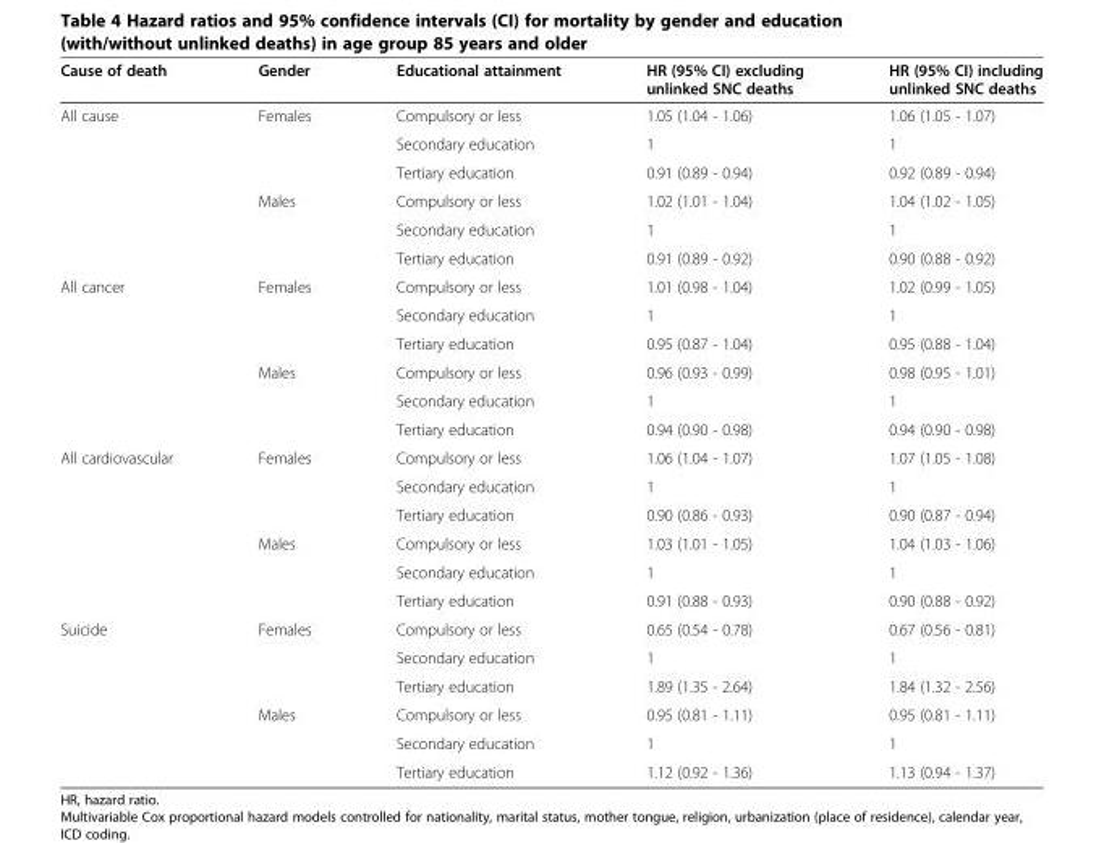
<table><thead><tr><td>Cause of death</td><td>Gender</td><td>Educational attainment</td><td>HR (95% CI) excluding unlinked SNC deaths</td><td>HR (95% CI) including unlinked SNC deaths</td></tr></thead><tbody><tr><td rowspan="6">All cause</td><td>Females</td><td>Compulsory or less</td><td>1.05 (1.04 - 1.06)</td><td>1.06 (1.05 - 1.07)</td></tr><tr><td></td><td>Secondary education</td><td>1</td><td>1</td></tr><tr><td></td><td>Tertiary education</td><td>0.91 (0.89 - 0.94)</td><td>0.92 (0.89 - 0.94)</td></tr><tr><td>Males</td><td>Compulsory or less</td><td>1.02 (1.01 - 1.04)</td><td>1.04 (1.02 - 1.05)</td></tr><tr><td></td><td>Secondary education</td><td>1</td><td>1</td></tr><tr><td></td><td>Tertiary education</td><td>0.91 (0.89 - 0.92)</td><td>0.90 (0.88 - 0.92)</td></tr><tr><td rowspan="6">All cancer</td><td>Females</td><td>Compulsory or less</td><td>1.01 (0.98 - 1.04)</td><td>1.02 (0.99 - 1.05)</td></tr><tr><td></td><td>Secondary education</td><td>1</td><td>1</td></tr><tr><td></td><td>Tertiary education</td><td>0.95 (0.87 - 1.04)</td><td>0.95 (0.88 - 1.04)</td></tr><tr><td>Males</td><td>Compulsory or less</td><td>0.96 (0.93 - 0.99)</td><td>0.98 (0.95 - 1.01)</td></tr><tr><td></td><td>Secondary education</td><td>1</td><td>1</td></tr><tr><td></td><td>Tertiary education</td><td>0.94 (0.90 - 0.98)</td><td>0.94 (0.90 - 0.98)</td></tr><tr><td rowspan="6">All cardiovascular</td><td>Females</td><td>Compulsory or less</td><td>1.06 (1.04 - 1.07)</td><td>1.07 (1.05 - 1.08)</td></tr><tr><td></td><td>Secondary education</td><td>1</td><td>1</td></tr><tr><td></td><td>Tertiary education</td><td>0.90 (0.86 - 0.93)</td><td>0.90 (0.87 - 0.94)</td></tr><tr><td>Males</td><td>Compulsory or less</td><td>1.03 (1.01 - 1.05)</td><td>1.04 (1.03 - 1.06)</td></tr><tr><td></td><td>Secondary education</td><td>1</td><td>1</td></tr><tr><td></td><td>Tertiary education</td><td>0.91 (0.88 - 0.93)</td><td>0.90 (0.88 - 0.92)</td></tr><tr><td rowspan="6">Suicide</td><td>Females</td><td>Compulsory or less</td><td>0.65 (0.54 - 0.78)</td><td>0.67 (0.56 - 0.81)</td></tr><tr><td></td><td>Secondary education</td><td>1</td><td>1</td></tr><tr><td></td><td>Tertiary education</td><td>1.89 (1.35 - 2.64)</td><td>1.84 (1.32 - 2.56)</td></tr><tr><td>Males</td><td>Compulsory or less</td><td>0.95 (0.81 - 1.11)</td><td>0.95 (0.81 - 1.11)</td></tr><tr><td></td><td>Secondary education</td><td>1</td><td>1</td></tr><tr><td></td><td>Tertiary education</td><td>1.12 (0.92 - 1.36)</td><td>1.13 (0.94 - 1.37)</td></tr></tbody></table>